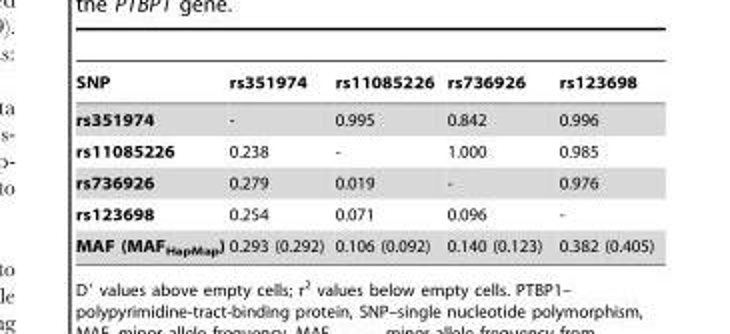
<table><thead><tr><td>SNP</td><td>rs351974</td><td>rs11085226</td><td>rs736926</td><td>rs123698</td></tr></thead><tbody><tr><td>rs351974</td><td>-</td><td>0.995</td><td>0.842</td><td>0.996</td></tr><tr><td>rs11085226</td><td>0.238</td><td>-</td><td>1.000</td><td>0.985</td></tr><tr><td>rs736926</td><td>0.279</td><td>0.019</td><td>-</td><td>0.976</td></tr><tr><td>rs123698</td><td>0.254</td><td>0.071</td><td>0.096</td><td>-</td></tr><tr><td>MAF (MAF<sub>HapMap</sub>)</td><td>0.293 (0.292)</td><td>0.106 (0.092)</td><td>0.140 (0.123)</td><td>0.382 (0.405)</td></tr></tbody></table>